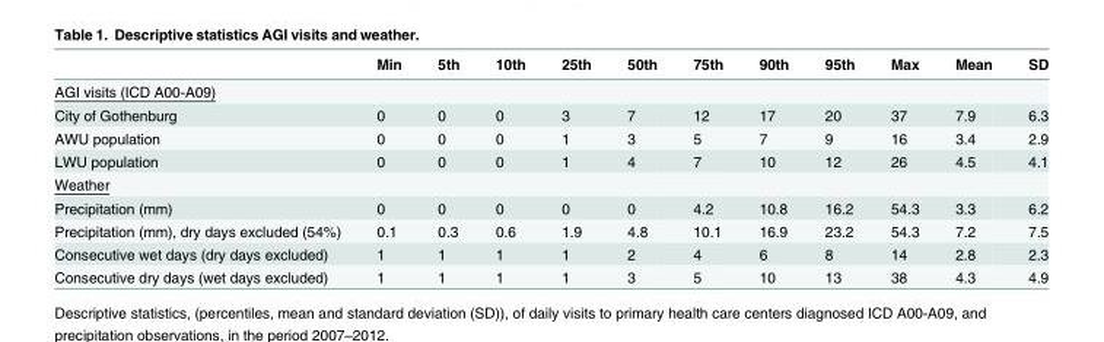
<table><thead><tr><td></td><td>Min</td><td>5th</td><td>10th</td><td>25th</td><td>50th</td><td>75th</td><td>90th</td><td>95th</td><td>Max</td><td>Mean</td><td>SD</td></tr></thead><tbody><tr><td colspan="12">AGI visits (ICD A00-A09)</td></tr><tr><td>City of Gothenburg</td><td>0</td><td>0</td><td>0</td><td>3</td><td>7</td><td>12</td><td>17</td><td>20</td><td>37</td><td>7.9</td><td>6.3</td></tr><tr><td>AWU population</td><td>0</td><td>0</td><td>0</td><td>1</td><td>3</td><td>5</td><td>7</td><td>9</td><td>16</td><td>3.4</td><td>2.9</td></tr><tr><td>LWU population</td><td>0</td><td>0</td><td>0</td><td>1</td><td>4</td><td>7</td><td>10</td><td>12</td><td>26</td><td>4.5</td><td>4.1</td></tr><tr><td colspan="12">Weather</td></tr><tr><td>Precipitation (mm)</td><td>0</td><td>0</td><td>0</td><td>0</td><td>0</td><td>4.2</td><td>10.8</td><td>16.2</td><td>54.3</td><td>3.3</td><td>6.2</td></tr><tr><td>Precipitation (mm), dry days excluded (54%)</td><td>0.1</td><td>0.3</td><td>0.6</td><td>1.9</td><td>4.8</td><td>10.1</td><td>16.9</td><td>23.2</td><td>54.3</td><td>7.2</td><td>7.5</td></tr><tr><td>Consecutive wet days (dry days excluded)</td><td>1</td><td>1</td><td>1</td><td>1</td><td>2</td><td>4</td><td>6</td><td>8</td><td>14</td><td>2.8</td><td>2.3</td></tr><tr><td>Consecutive dry days (wet days excluded)</td><td>1</td><td>1</td><td>1</td><td>1</td><td>3</td><td>5</td><td>10</td><td>13</td><td>38</td><td>4.3</td><td>4.9</td></tr></tbody></table>